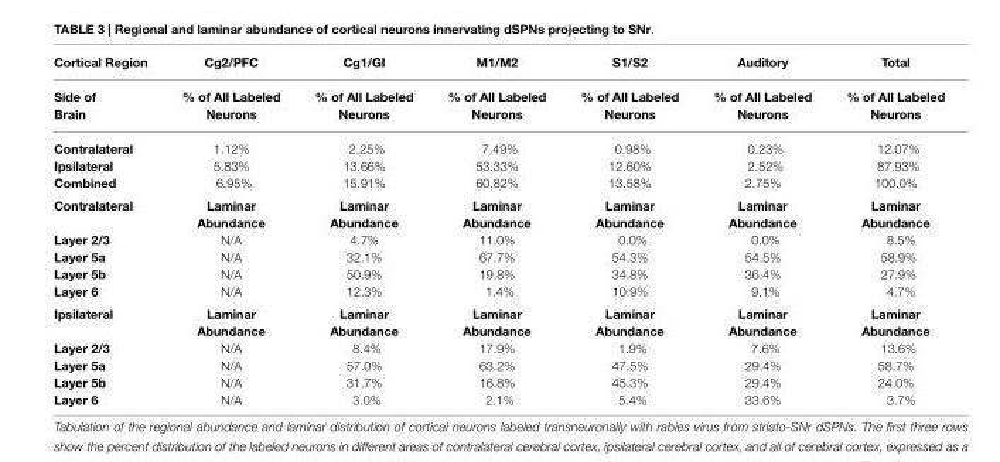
<table><thead><tr><td rowspan="2">Cortical Region Side of Brain</td><td rowspan="2">Cg2/PFC % of All Labeled Neurons</td><td rowspan="2">Cg1/GI % of All Labeled Neurons</td><td rowspan="2">M1/M2 % of All Labeled Neurons</td><td rowspan="2">S1/S2 % of All Labeled Neurons</td><td rowspan="2">Auditory % of All Labeled Neurons</td><td rowspan="2">Total % of All Labeled Neurons</td></tr><tr></tr></thead><tbody><tr><td>Contralateral</td><td>1.12%</td><td>2.25%</td><td>7.49%</td><td>0.98%</td><td>0.23%</td><td>12.07%</td></tr><tr><td>Ipsilateral</td><td>5.83%</td><td>13.66%</td><td>53.33%</td><td>12.60%</td><td>2.52%</td><td>87.93%</td></tr><tr><td>Combined</td><td>6.95%</td><td>15.91%</td><td>60.82%</td><td>13.58%</td><td>2.75%</td><td>100.0%</td></tr><tr><td rowspan="2">Contralateral</td><td>Laminar</td><td>Laminar</td><td>Laminar</td><td>Laminar</td><td>Laminar</td><td>Laminar</td></tr><tr><td>Abundance</td><td>Abundance</td><td>Abundance</td><td>Abundance</td><td>Abundance</td><td>Abundance</td></tr><tr><td>Layer 2/3</td><td>N/A</td><td>4.7%</td><td>11.0%</td><td>0.0%</td><td>0.0%</td><td>8.5%</td></tr><tr><td>Layer 5a</td><td>N/A</td><td>32.1%</td><td>67.7%</td><td>54.3%</td><td>54.5%</td><td>58.9%</td></tr><tr><td>Layer 5b</td><td>N/A</td><td>50.9%</td><td>19.8%</td><td>34.8%</td><td>36.4%</td><td>27.9%</td></tr><tr><td>Layer 6</td><td>N/A</td><td>12.3%</td><td>1.4%</td><td>10.9%</td><td>9.1%</td><td>4.7%</td></tr><tr><td rowspan="2">Ipsilateral</td><td>Laminar</td><td>Laminar</td><td>Laminar</td><td>Laminar</td><td>Laminar</td><td>Laminar</td></tr><tr><td>Abundance</td><td>Abundance</td><td>Abundance</td><td>Abundance</td><td>Abundance</td><td>Abundance</td></tr><tr><td>Layer 2/3</td><td>N/A</td><td>8.4%</td><td>17.9%</td><td>1.9%</td><td>7.6%</td><td>13.6%</td></tr><tr><td>Layer 5a</td><td>N/A</td><td>57.0%</td><td>63.2%</td><td>47.5%</td><td>29.4%</td><td>58.7%</td></tr><tr><td>Layer 5b</td><td>N/A</td><td>31.7%</td><td>16.8%</td><td>45.3%</td><td>29.4%</td><td>24.0%</td></tr><tr><td>Layer 6</td><td>N/A</td><td>3.0%</td><td>2.1%</td><td>5.4%</td><td>33.6%</td><td>3.7%</td></tr></tbody></table>